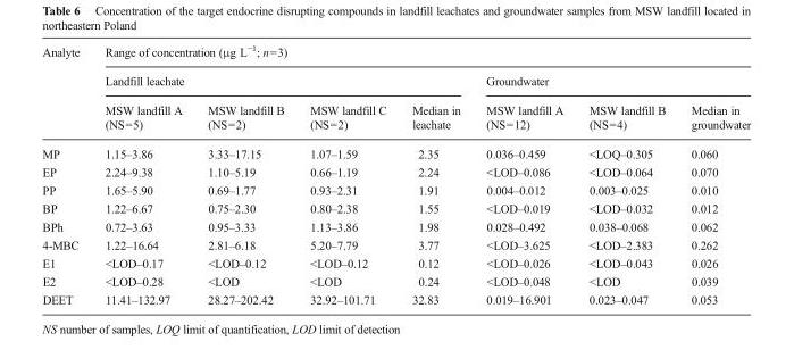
<table><thead><tr><td rowspan="3">Analyte</td><td colspan="7">Range of concentration (μg L<sup>−1</sup>; n=3)</td></tr><tr><td colspan="4">Landfill leachate</td><td colspan="3">Groundwater</td></tr><tr><td>MSW landfill A (NS=5)</td><td>MSW landfill B (NS=2)</td><td>MSW landfill C (NS=2)</td><td>Median in leachate</td><td>MSW landfill A (NS=12)</td><td>MSW landfill B (NS=4)</td><td>Median in groundwater</td></tr></thead><tbody><tr><td>MP</td><td>1.15–3.86</td><td>3.33–17.15</td><td>1.07–1.59</td><td>2.35</td><td>0.036–0.459</td><td>&lt;LOQ–0.305</td><td>0.060</td></tr><tr><td>EP</td><td>2.24–9.38</td><td>1.10–5.19</td><td>0.66–1.19</td><td>2.24</td><td>&lt;LOD–0.086</td><td>&lt;LOD–0.064</td><td>0.070</td></tr><tr><td>PP</td><td>1.65–5.90</td><td>0.69–1.77</td><td>0.93–2.31</td><td>1.91</td><td>0.004–0.012</td><td>0.003–0.025</td><td>0.010</td></tr><tr><td>BP</td><td>1.22–6.67</td><td>0.75–2.30</td><td>0.80–2.38</td><td>1.55</td><td>&lt;LOD–0.019</td><td>&lt;LOD–0.032</td><td>0.012</td></tr><tr><td>BPh</td><td>0.72–3.63</td><td>0.95–3.33</td><td>1.13–3.86</td><td>1.98</td><td>0.028–0.492</td><td>0.038–0.068</td><td>0.062</td></tr><tr><td>4-MBC</td><td>1.22–16.64</td><td>2.81–6.18</td><td>5.20–7.79</td><td>3.77</td><td>&lt;LOD–3.625</td><td>&lt;LOD–2.383</td><td>0.262</td></tr><tr><td>E1</td><td>&lt;LOD–0.17</td><td>&lt;LOD–0.12</td><td>&lt;LOD–0.12</td><td>0.12</td><td>&lt;LOD–0.026</td><td>&lt;LOD–0.043</td><td>0.026</td></tr><tr><td>E2</td><td>&lt;LOD–0.28</td><td>&lt;LOD</td><td>&lt;LOD</td><td>0.24</td><td>&lt;LOD–0.048</td><td>&lt;LOD</td><td>0.039</td></tr><tr><td>DEET</td><td>11.41–132.97</td><td>28.27–202.42</td><td>32.92–101.71</td><td>32.83</td><td>0.019–16.901</td><td>0.023–0.047</td><td>0.053</td></tr></tbody></table>